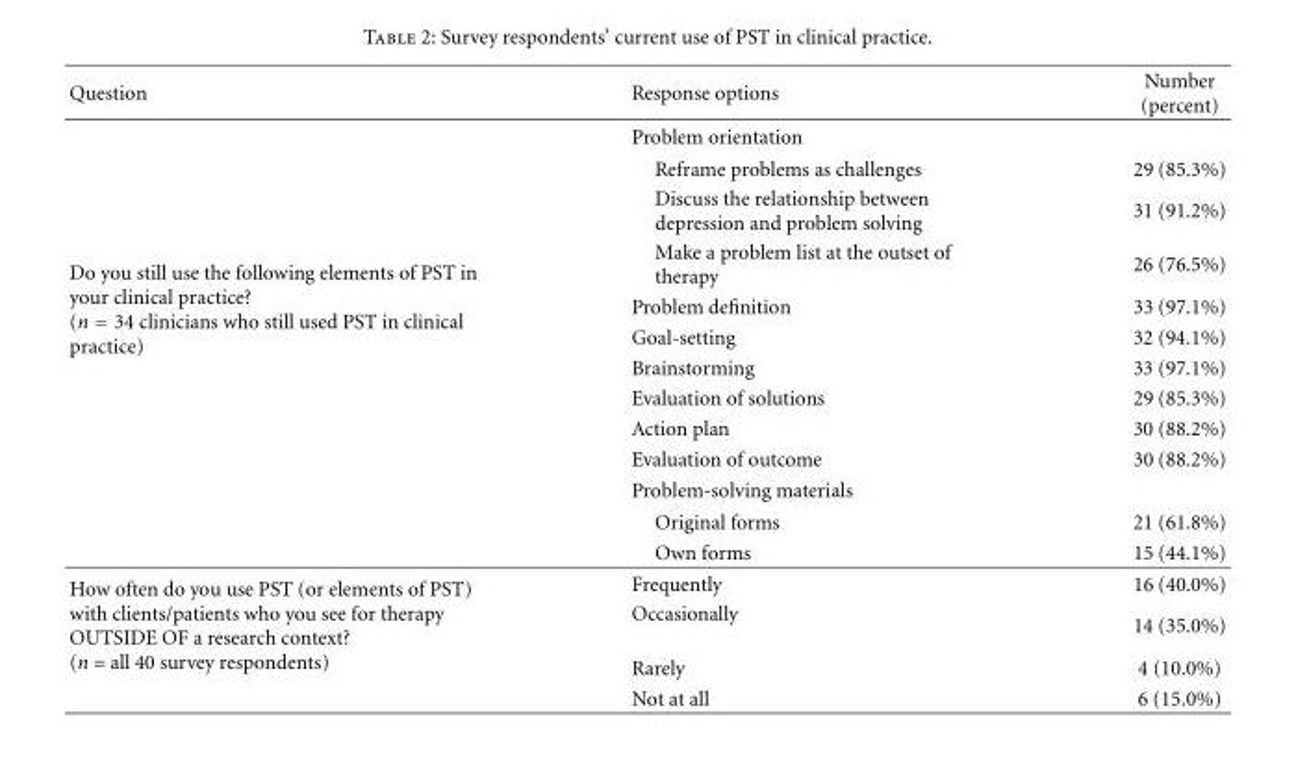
<table><thead><tr><td>Question</td><td>Response options</td><td>Number (percent)</td></tr></thead><tbody><tr><td rowspan="13">Do you still use the following elements of PST in your clinical practice? (n = 34 clinicians who still used PST in clinical practice)</td><td>Problem orientation</td><td></td></tr><tr><td>Reframe problems as challenges</td><td>29 (85.3%)</td></tr><tr><td>Discuss the relationship between depression and problem solving</td><td>31 (91.2%)</td></tr><tr><td>Make a problem list at the outset of therapy</td><td>26 (76.5%)</td></tr><tr><td>Problem definition</td><td>33 (97.1%)</td></tr><tr><td>Goal-setting</td><td>32 (94.1%)</td></tr><tr><td>Brainstorming</td><td>33 (97.1%)</td></tr><tr><td>Evaluation of solutions</td><td>29 (85.3%)</td></tr><tr><td>Action plan</td><td>30 (88.2%)</td></tr><tr><td>Evaluation of outcome</td><td>30 (88.2%)</td></tr><tr><td>Problem-solving materials</td><td></td></tr><tr><td>Original forms</td><td>21 (61.8%)</td></tr><tr><td>Own forms</td><td>15 (44.1%)</td></tr><tr><td rowspan="4">How often do you use PST (or elements of PST) with clients/patients who you see for therapy OUTSIDE OF a research context? (n = all 40 survey respondents)</td><td>Frequently</td><td>16 (40.0%)</td></tr><tr><td>Occasionally</td><td>14 (35.0%)</td></tr><tr><td>Rarely</td><td>4 (10.0%)</td></tr><tr><td>Not at all</td><td>6 (15.0%)</td></tr></tbody></table>